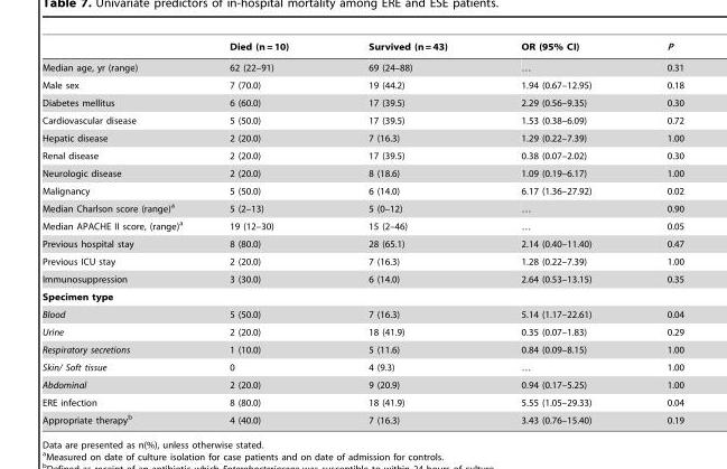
<table><thead><tr><td></td><td>Died (n = 10)</td><td>Survived (n = 43)</td><td>OR (95% CI)</td><td>P</td></tr></thead><tbody><tr><td>Median age, yr (range)</td><td>62 (22–91)</td><td>69 (24–88)</td><td>…</td><td>0.31</td></tr><tr><td>Male sex</td><td>7 (70.0)</td><td>19 (44.2)</td><td>1.94 (0.67–12.95)</td><td>0.18</td></tr><tr><td>Diabetes mellitus</td><td>6 (60.0)</td><td>17 (39.5)</td><td>2.29 (0.56–9.35)</td><td>0.30</td></tr><tr><td>Cardiovascular disease</td><td>5 (50.0)</td><td>17 (39.5)</td><td>1.53 (0.38–6.09)</td><td>0.72</td></tr><tr><td>Hepatic disease</td><td>2 (20.0)</td><td>7 (16.3)</td><td>1.29 (0.22–7.39)</td><td>1.00</td></tr><tr><td>Renal disease</td><td>2 (20.0)</td><td>17 (39.5)</td><td>0.38 (0.07–2.02)</td><td>0.30</td></tr><tr><td>Neurologic disease</td><td>2 (20.0)</td><td>8 (18.6)</td><td>1.09 (0.19–6.17)</td><td>1.00</td></tr><tr><td>Malignancy</td><td>5 (50.0)</td><td>6 (14.0)</td><td>6.17 (1.36–27.92)</td><td>0.02</td></tr><tr><td>Median Charlson score (range)<sup>a</sup></td><td>5 (2–13)</td><td>5 (0–12)</td><td>…</td><td>0.90</td></tr><tr><td>Median APACHE II score, (range)<sup>a</sup></td><td>19 (12–30)</td><td>15 (2–46)</td><td>…</td><td>0.05</td></tr><tr><td>Previous hospital stay</td><td>8 (80.0)</td><td>28 (65.1)</td><td>2.14 (0.40–11.40)</td><td>0.47</td></tr><tr><td>Previous ICU stay</td><td>2 (20.0)</td><td>7 (16.3)</td><td>1.28 (0.22–7.39)</td><td>1.00</td></tr><tr><td>Immunosuppression</td><td>3 (30.0)</td><td>6 (14.0)</td><td>2.64 (0.53–13.15)</td><td>0.35</td></tr><tr><td colspan="5">Specimen type</td></tr><tr><td>Blood</td><td>5 (50.0)</td><td>7 (16.3)</td><td>5.14 (1.17–22.61)</td><td>0.04</td></tr><tr><td>Urine</td><td>2 (20.0)</td><td>18 (41.9)</td><td>0.35 (0.07–1.83)</td><td>0.29</td></tr><tr><td>Respiratory secretions</td><td>1 (10.0)</td><td>5 (11.6)</td><td>0.84 (0.09–8.15)</td><td>1.00</td></tr><tr><td>Skin/ Soft tissue</td><td>0</td><td>4 (9.3)</td><td>…</td><td>1.00</td></tr><tr><td>Abdominal</td><td>2 (20.0)</td><td>9 (20.9)</td><td>0.94 (0.17–5.25)</td><td>1.00</td></tr><tr><td>ERE infection</td><td>8 (80.0)</td><td>18 (41.9)</td><td>5.55 (1.05–29.33)</td><td>0.04</td></tr><tr><td>Appropriate therapy<sup>b</sup></td><td>4 (40.0)</td><td>7 (16.3)</td><td>3.43 (0.76–15.40)</td><td>0.19</td></tr></tbody></table>